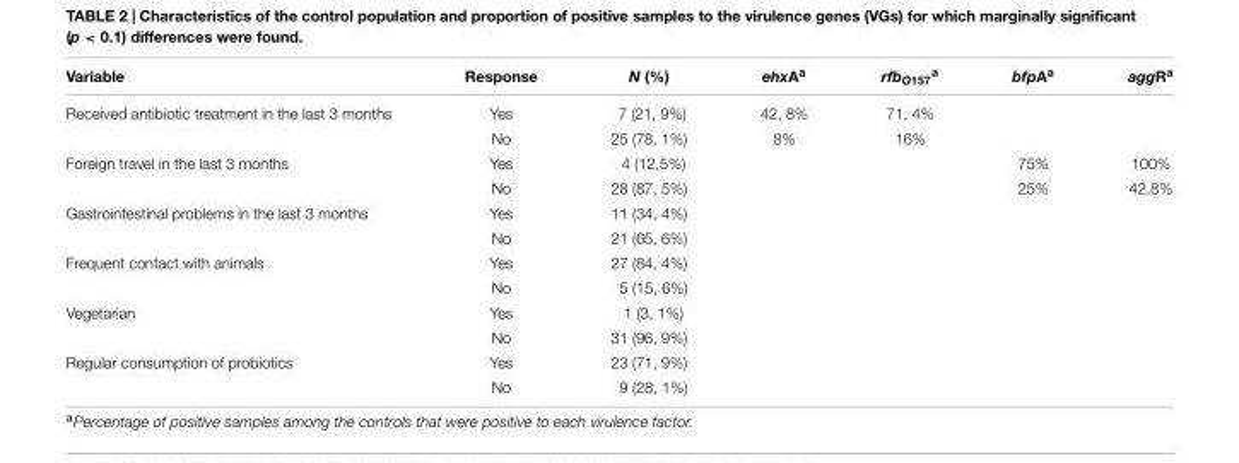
<table><thead><tr><td>Variable</td><td>Response</td><td>N (%)</td><td>ehxA<sup>a</sup></td><td>rfb<sub>O157</sub><sup>a</sup></td><td>bfpA<sup>a</sup></td><td>aggR<sup>a</sup></td></tr></thead><tbody><tr><td rowspan="2">Received antibiotic treatment in the last 3 months</td><td>Yes</td><td>7 (21, 9%)</td><td>42, 8%</td><td>71, 4%</td><td></td><td></td></tr><tr><td>No</td><td>25 (78, 1%)</td><td>8%</td><td>16%</td><td></td><td></td></tr><tr><td rowspan="2">Foreign travel in the last 3 months</td><td>Yes</td><td>4 (12,5%)</td><td></td><td></td><td>75%</td><td>100%</td></tr><tr><td>No</td><td>28 (87, 5%)</td><td></td><td></td><td>25%</td><td>42,8%</td></tr><tr><td rowspan="2">Gastrointestinal problems in the last 3 months</td><td>Yes</td><td>11 (34, 4%)</td><td></td><td></td><td></td><td></td></tr><tr><td>No</td><td>21 (65, 6%)</td><td></td><td></td><td></td><td></td></tr><tr><td rowspan="2">Frequent contact with animals</td><td>Yes</td><td>27 (84, 4%)</td><td></td><td></td><td></td><td></td></tr><tr><td>No</td><td>5 (15, 6%)</td><td></td><td></td><td></td><td></td></tr><tr><td rowspan="2">Vegetarian</td><td>Yes</td><td>1 (3, 1%)</td><td></td><td></td><td></td><td></td></tr><tr><td>No</td><td>31 (96, 9%)</td><td></td><td></td><td></td><td></td></tr><tr><td rowspan="2">Regular consumption of probiotics</td><td>Yes</td><td>23 (71, 9%)</td><td></td><td></td><td></td><td></td></tr><tr><td>No</td><td>9 (28, 1%)</td><td></td><td></td><td></td><td></td></tr></tbody></table>